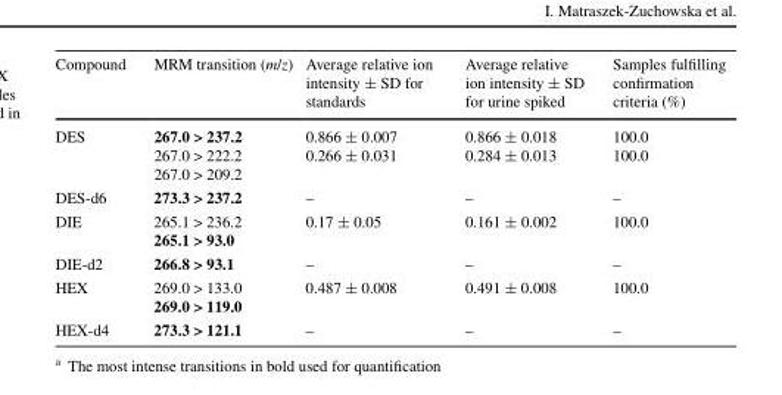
<table><thead><tr><td>Compound</td><td>MRM transition (m/z)</td><td>Average relative ion intensity ± SD for standards</td><td>Average relative ion intensity ± SD for urine spiked</td><td>Samples fulfilling confirmation criteria (%)</td></tr></thead><tbody><tr><td>DES</td><td>267.0 &gt; 237.2 267.0 &gt; 222.2 267.0 &gt; 209.2</td><td>0.866 ± 0.007 0.266 ± 0.031</td><td>0.866 ± 0.018 0.284 ± 0.013</td><td>100.0 100.0</td></tr><tr><td>DES-d6</td><td>273.3 &gt; 237.2</td><td>–</td><td>–</td><td>–</td></tr><tr><td>DIE</td><td>265.1 &gt; 236.2 265.1 &gt; 93.0</td><td>0.17 ± 0.05</td><td>0.161 ± 0.002</td><td>100.0</td></tr><tr><td>DIE-d2</td><td>266.8 &gt; 93.1</td><td>–</td><td>–</td><td>–</td></tr><tr><td>HEX</td><td>269.0 &gt; 133.0 269.0 &gt; 119.0</td><td>0.487 ± 0.008</td><td>0.491 ± 0.008</td><td>100.0</td></tr><tr><td>HEX-d4</td><td>273.3 &gt; 121.1</td><td>–</td><td>–</td><td>–</td></tr></tbody></table>